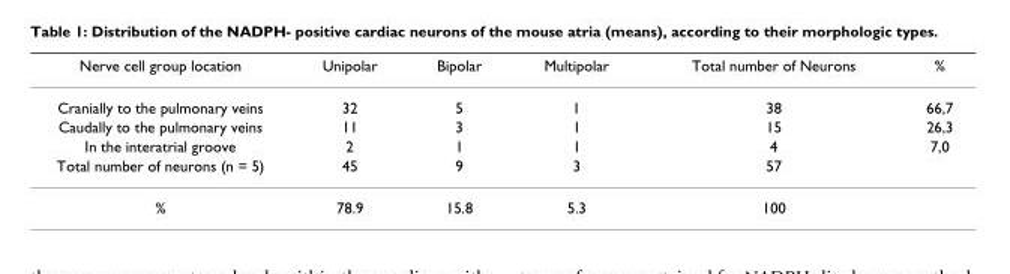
<table><thead><tr><td>Nerve cell group location</td><td>Unipolar</td><td>Bipolar</td><td>Multipolar</td><td>Total number of Neurons</td><td>%</td></tr></thead><tbody><tr><td>Cranially to the pulmonary veins</td><td>32</td><td>5</td><td>1</td><td>38</td><td>66,7</td></tr><tr><td>Caudally to the pulmonary veins</td><td>11</td><td>3</td><td>1</td><td>15</td><td>26,3</td></tr><tr><td>In the interatrial groove</td><td>2</td><td>1</td><td>1</td><td>4</td><td>7,0</td></tr><tr><td>Total number of neurons (n = 5)</td><td>45</td><td>9</td><td>3</td><td>57</td><td></td></tr><tr><td>%</td><td>78.9</td><td>15.8</td><td>5.3</td><td>100</td><td></td></tr></tbody></table>